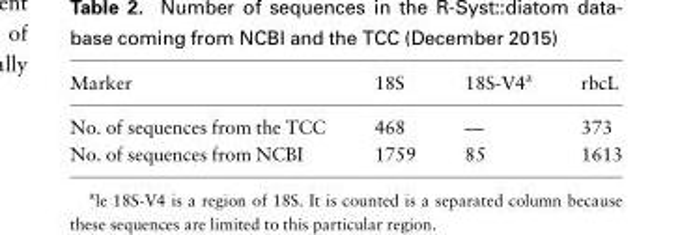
<table><thead><tr><td>Marker</td><td>18S</td><td>18S-V4<sup>a</sup></td><td>rbcL</td></tr></thead><tbody><tr><td>No. of sequences from the TCC</td><td>468</td><td>—</td><td>373</td></tr><tr><td>No. of sequences from NCBI</td><td>1759</td><td>85</td><td>1613</td></tr></tbody></table>